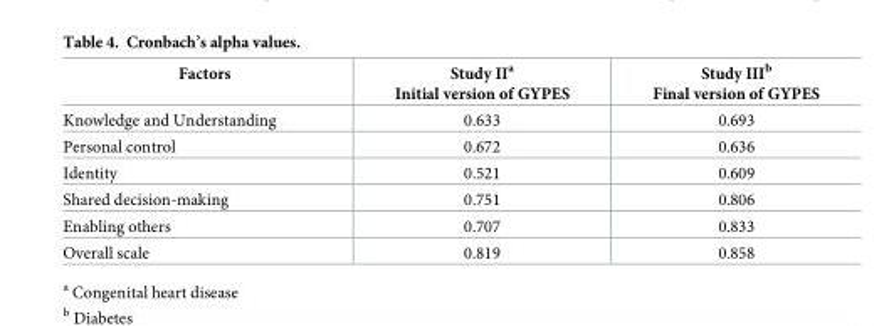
<table><thead><tr><td>Factors</td><td>Study II<sup>a</sup> Initial version of GYPES</td><td>Study III<sup>b</sup> Final version of GYPES</td></tr></thead><tbody><tr><td>Knowledge and Understanding</td><td>0.633</td><td>0.693</td></tr><tr><td>Personal control</td><td>0.672</td><td>0.636</td></tr><tr><td>Identity</td><td>0.521</td><td>0.609</td></tr><tr><td>Shared decision-making</td><td>0.751</td><td>0.806</td></tr><tr><td>Enabling others</td><td>0.707</td><td>0.833</td></tr><tr><td>Overall scale</td><td>0.819</td><td>0.858</td></tr></tbody></table>